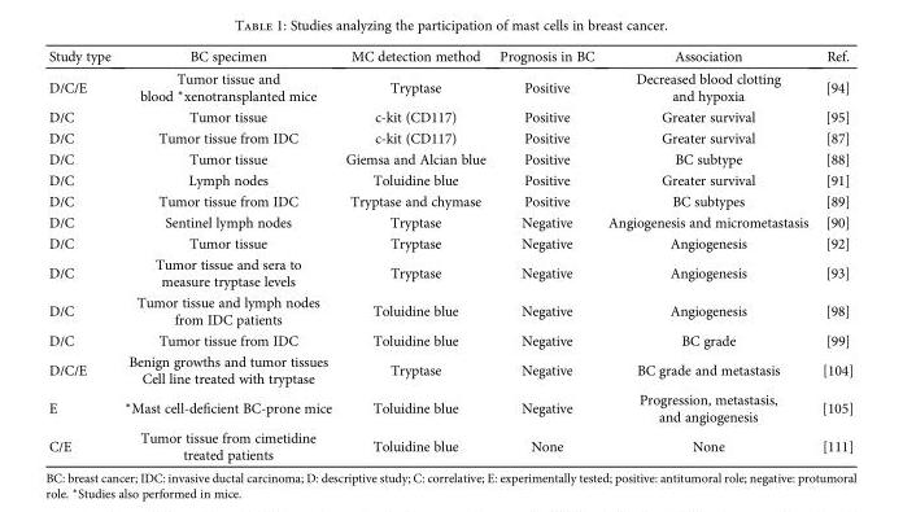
<table><thead><tr><td>Study type</td><td>BC specimen</td><td>MC detection method</td><td>Prognosis in BC</td><td>Association</td><td>Ref.</td></tr></thead><tbody><tr><td>D/C/E</td><td>Tumor tissue and blood ∗xenotransplanted mice</td><td>Tryptase</td><td>Positive</td><td>Decreased blood clotting and hypoxia</td><td>[94]</td></tr><tr><td>D/C</td><td>Tumor tissue</td><td>c-kit (CD117)</td><td>Positive</td><td>Greater survival</td><td>[95]</td></tr><tr><td>D/C</td><td>Tumor tissue from IDC</td><td>c-kit (CD117)</td><td>Positive</td><td>Greater survival</td><td>[87]</td></tr><tr><td>D/C</td><td>Tumor tissue</td><td>Giemsa and Alcian blue</td><td>Positive</td><td>BC subtype</td><td>[88]</td></tr><tr><td>D/C</td><td>Lymph nodes</td><td>Toluidine blue</td><td>Positive</td><td>Greater survival</td><td>[91]</td></tr><tr><td>D/C</td><td>Tumor tissue from IDC</td><td>Tryptase and chymase</td><td>Positive</td><td>BC subtypes</td><td>[89]</td></tr><tr><td>D/C</td><td>Sentinel lymph nodes</td><td>Tryptase</td><td>Negative</td><td>Angiogenesis and micrometastasis</td><td>[90]</td></tr><tr><td>D/C</td><td>Tumor tissue</td><td>Tryptase</td><td>Negative</td><td>Angiogenesis</td><td>[92]</td></tr><tr><td>D/C</td><td>Tumor tissue and sera to measure tryptase levels</td><td>Tryptase</td><td>Negative</td><td>Angiogenesis</td><td>[93]</td></tr><tr><td>D/C</td><td>Tumor tissue and lymph nodes from IDC patients</td><td>Toluidine blue</td><td>Negative</td><td>Angiogenesis</td><td>[98]</td></tr><tr><td>D/C</td><td>Tumor tissue from IDC</td><td>Toluidine blue</td><td>Negative</td><td>BC grade</td><td>[99]</td></tr><tr><td>D/C/E</td><td>Benign growths and tumor tissues Cell line treated with tryptase</td><td>Tryptase</td><td>Negative</td><td>BC grade and metastasis</td><td>[104]</td></tr><tr><td>E</td><td>∗Mast cell-deficient BC-prone mice</td><td>Toluidine blue</td><td>Negative</td><td>Progression, metastasis, and angiogenesis</td><td>[105]</td></tr><tr><td>C/E</td><td>Tumor tissue from cimetidine treated patients</td><td>Toluidine blue</td><td>None</td><td>None</td><td>[111]</td></tr></tbody></table>